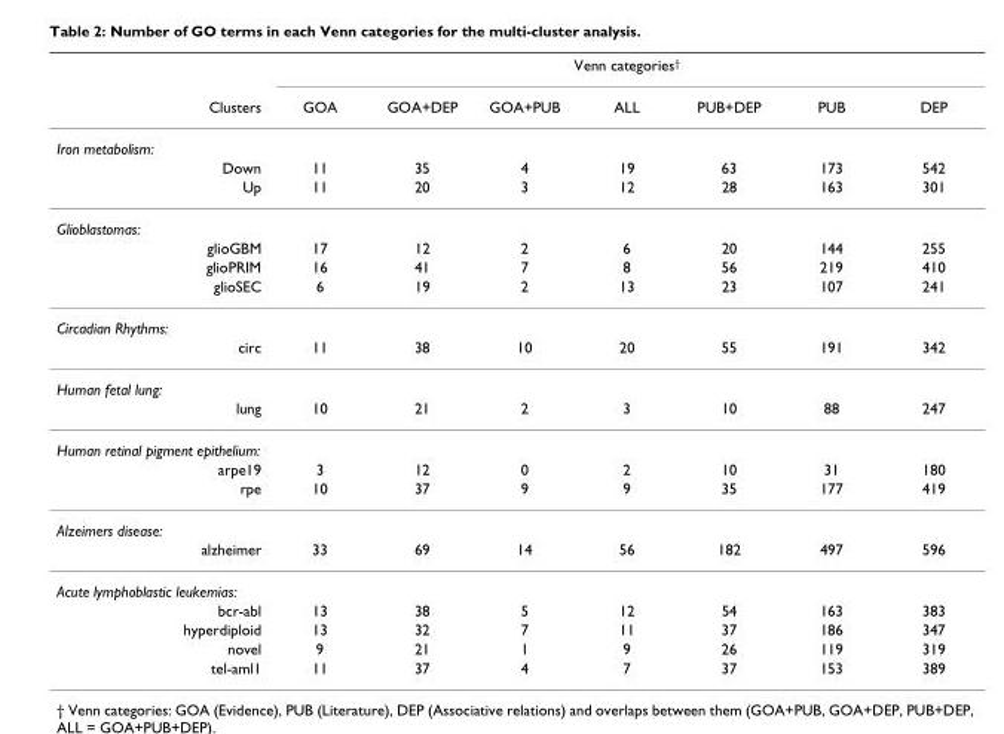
<table><thead><tr><td rowspan="2">Clusters</td><td colspan="7">Venn categories†</td></tr><tr><td>GOA</td><td>GOA+DEP</td><td>GOA+PUB</td><td>ALL</td><td>PUB+DEP</td><td>PUB</td><td>DEP</td></tr></thead><tbody><tr><td colspan="8">Iron metabolism:</td></tr><tr><td>Down</td><td>11</td><td>35</td><td>4</td><td>19</td><td>63</td><td>173</td><td>542</td></tr><tr><td>Up</td><td>11</td><td>20</td><td>3</td><td>12</td><td>28</td><td>163</td><td>301</td></tr><tr><td colspan="8">Glioblastomas:</td></tr><tr><td>glioGBM</td><td>17</td><td>12</td><td>2</td><td>6</td><td>20</td><td>144</td><td>255</td></tr><tr><td>glioPRIM</td><td>16</td><td>41</td><td>7</td><td>8</td><td>56</td><td>219</td><td>410</td></tr><tr><td>glioSEC</td><td>6</td><td>19</td><td>2</td><td>13</td><td>23</td><td>107</td><td>241</td></tr><tr><td colspan="8">Circadian Rhythms:</td></tr><tr><td>circ</td><td>11</td><td>38</td><td>10</td><td>20</td><td>55</td><td>191</td><td>342</td></tr><tr><td colspan="8">Human fetal lung:</td></tr><tr><td>lung</td><td>10</td><td>21</td><td>2</td><td>3</td><td>10</td><td>88</td><td>247</td></tr><tr><td colspan="8">Human retinal pigment epithelium:</td></tr><tr><td>arpe19</td><td>3</td><td>12</td><td>0</td><td>2</td><td>10</td><td>31</td><td>180</td></tr><tr><td>rpe</td><td>10</td><td>37</td><td>9</td><td>9</td><td>35</td><td>177</td><td>419</td></tr><tr><td colspan="8">Alzeimers disease:</td></tr><tr><td>alzheimer</td><td>33</td><td>69</td><td>14</td><td>56</td><td>182</td><td>497</td><td>596</td></tr><tr><td colspan="8">Acute lymphoblastic leukemias:</td></tr><tr><td>bcr-abl</td><td>13</td><td>38</td><td>5</td><td>12</td><td>54</td><td>163</td><td>383</td></tr><tr><td>hyperdiploid</td><td>13</td><td>32</td><td>7</td><td>11</td><td>37</td><td>186</td><td>347</td></tr><tr><td>novel</td><td>9</td><td>21</td><td>1</td><td>9</td><td>26</td><td>119</td><td>319</td></tr><tr><td>tel-aml1</td><td>11</td><td>37</td><td>4</td><td>7</td><td>37</td><td>153</td><td>389</td></tr></tbody></table>